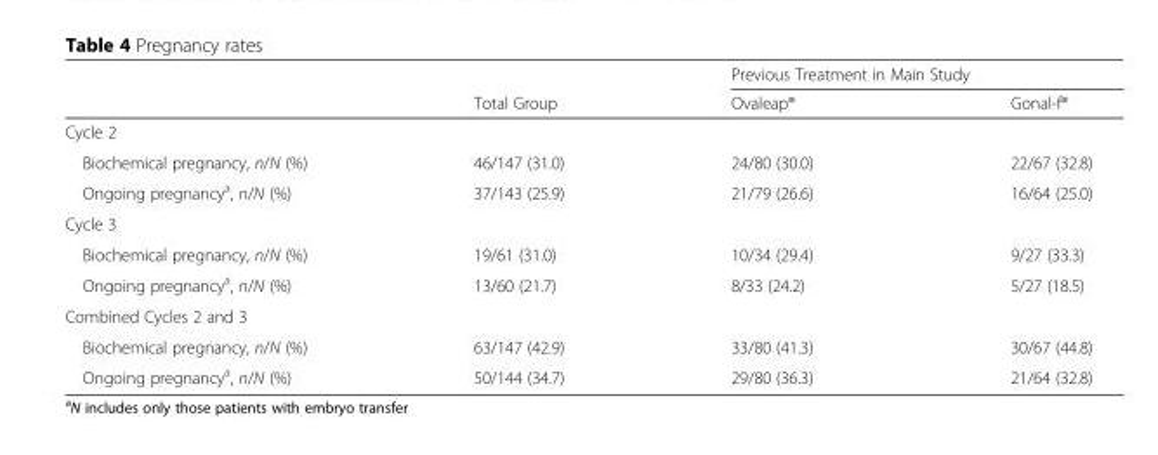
<table><thead><tr><td rowspan="2"></td><td rowspan="2">Total Group</td><td colspan="2">Previous Treatment in Main Study</td></tr><tr><td>Ovaleap®</td><td>Gonal-f®</td></tr></thead><tbody><tr><td colspan="4">Cycle 2</td></tr><tr><td>Biochemical pregnancy, n/N (%)</td><td>46/147 (31.0)</td><td>24/80 (30.0)</td><td>22/67 (32.8)</td></tr><tr><td>Ongoing pregnancy<sup>a</sup>, n/N (%)</td><td>37/143 (25.9)</td><td>21/79 (26.6)</td><td>16/64 (25.0)</td></tr><tr><td colspan="4">Cycle 3</td></tr><tr><td>Biochemical pregnancy, n/N (%)</td><td>19/61 (31.0)</td><td>10/34 (29.4)</td><td>9/27 (33.3)</td></tr><tr><td>Ongoing pregnancy<sup>a</sup>, n/N (%)</td><td>13/60 (21.7)</td><td>8/33 (24.2)</td><td>5/27 (18.5)</td></tr><tr><td colspan="4">Combined Cycles 2 and 3</td></tr><tr><td>Biochemical pregnancy, n/N (%)</td><td>63/147 (42.9)</td><td>33/80 (41.3)</td><td>30/67 (44.8)</td></tr><tr><td>Ongoing pregnancy<sup>a</sup>, n/N (%)</td><td>50/144 (34.7)</td><td>29/80 (36.3)</td><td>21/64 (32.8)</td></tr></tbody></table>